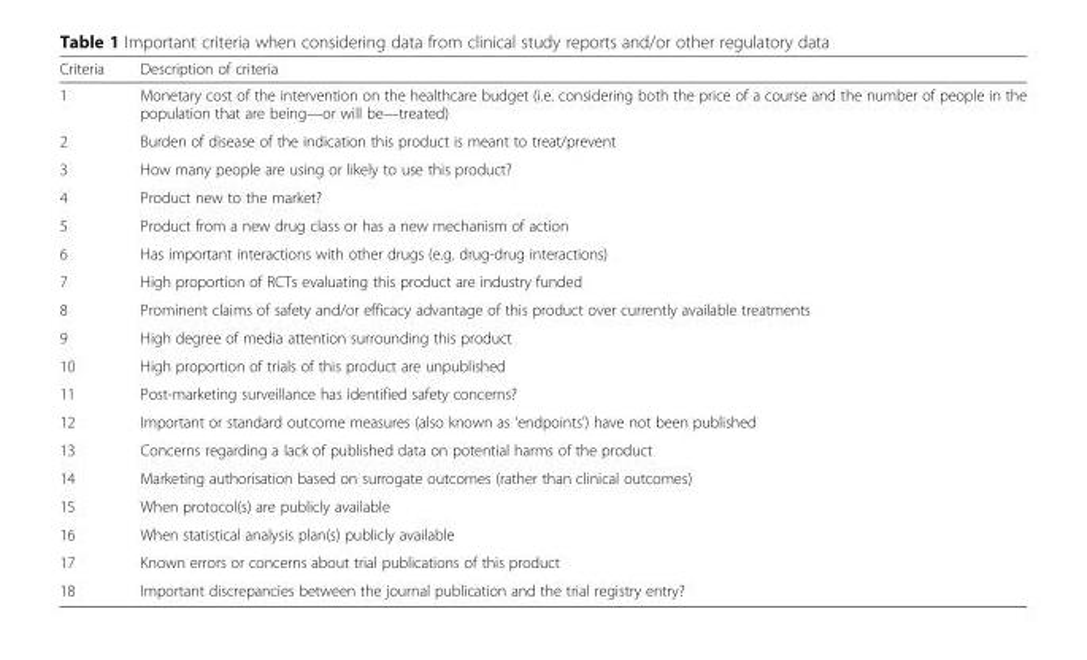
<table><thead><tr><td>Criteria</td><td>Description of criteria</td></tr></thead><tbody><tr><td>1</td><td>Monetary cost of the intervention on the healthcare budget (i.e. considering both the price of a course and the number of people in the population that are being—or will be—treated)</td></tr><tr><td>2</td><td>Burden of disease of the indication this product is meant to treat/prevent</td></tr><tr><td>3</td><td>How many people are using or likely to use this product?</td></tr><tr><td>4</td><td>Product new to the market?</td></tr><tr><td>5</td><td>Product from a new drug class or has a new mechanism of action</td></tr><tr><td>6</td><td>Has important interactions with other drugs (e.g. drug-drug interactions)</td></tr><tr><td>7</td><td>High proportion of RCTs evaluating this product are industry funded</td></tr><tr><td>8</td><td>Prominent claims of safety and/or efficacy advantage of this product over currently available treatments</td></tr><tr><td>9</td><td>High degree of media attention surrounding this product</td></tr><tr><td>10</td><td>High proportion of trials of this product are unpublished</td></tr><tr><td>11</td><td>Post-marketing surveillance has identified safety concerns?</td></tr><tr><td>12</td><td>Important or standard outcome measures (also known as ‘endpoints’) have not been published</td></tr><tr><td>13</td><td>Concerns regarding a lack of published data on potential harms of the product</td></tr><tr><td>14</td><td>Marketing authorisation based on surrogate outcomes (rather than clinical outcomes)</td></tr><tr><td>15</td><td>When protocol(s) are publicly available</td></tr><tr><td>16</td><td>When statistical analysis plan(s) publicly available</td></tr><tr><td>17</td><td>Known errors or concerns about trial publications of this product</td></tr><tr><td>18</td><td>Important discrepancies between the journal publication and the trial registry entry?</td></tr></tbody></table>